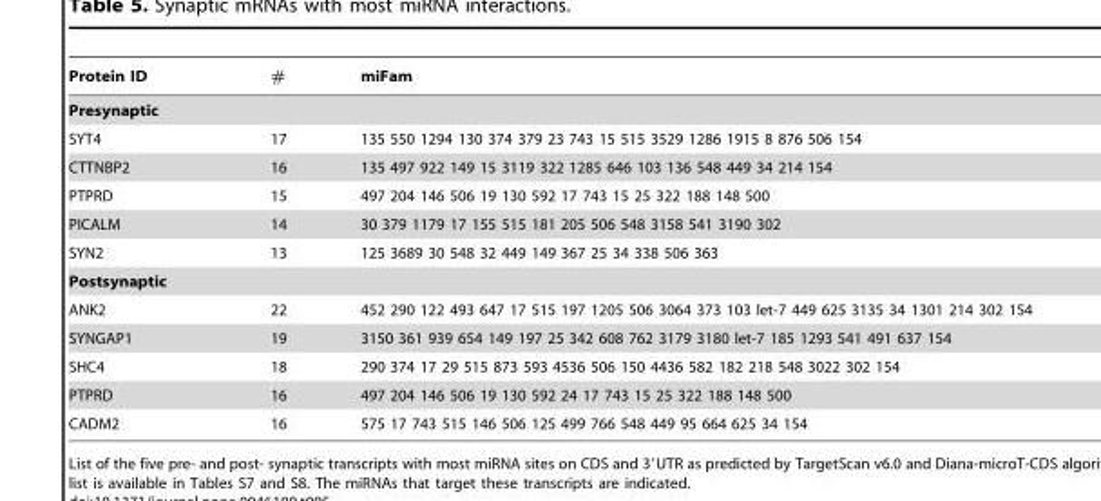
<table><thead><tr><td>Protein ID</td><td>#</td><td>miFam</td></tr></thead><tbody><tr><td colspan="3">Presynaptic</td></tr><tr><td>SYT4</td><td>17</td><td>135 550 1294 130 374 379 23 743 15 515 3529 1286 1915 8 876 506 154</td></tr><tr><td>CTTNBP2</td><td>16</td><td>135 497 922 149 15 3119 322 1285 646 103 136 548 449 34 214 154</td></tr><tr><td>PTPRD</td><td>15</td><td>497 204 146 506 19 130 592 17 743 15 25 322 188 148 500</td></tr><tr><td>PICALM</td><td>14</td><td>30 379 1179 17 155 515 181 205 506 548 3158 541 3190 302</td></tr><tr><td>SYN2</td><td>13</td><td>125 3689 30 548 32 449 149 367 25 34 338 506 363</td></tr><tr><td colspan="3">Postsynaptic</td></tr><tr><td>ANK2</td><td>22</td><td>452 290 122 493 647 17 515 197 1205 506 3064 373 103 let-7 449 625 3135 34 1301 214 302 154</td></tr><tr><td>SYNGAP1</td><td>19</td><td>3150 361 939 654 149 197 25 342 608 762 3179 3180 let-7 185 1293 541 491 637 154</td></tr><tr><td>SHC4</td><td>18</td><td>290 374 17 29 515 873 593 4536 506 150 4436 582 182 218 548 3022 302 154</td></tr><tr><td>PTPRD</td><td>16</td><td>497 204 146 506 19 130 592 24 17 743 15 25 322 188 148 500</td></tr><tr><td>CADM2</td><td>16</td><td>575 17 743 515 146 506 125 499 766 548 449 95 664 625 34 154</td></tr></tbody></table>